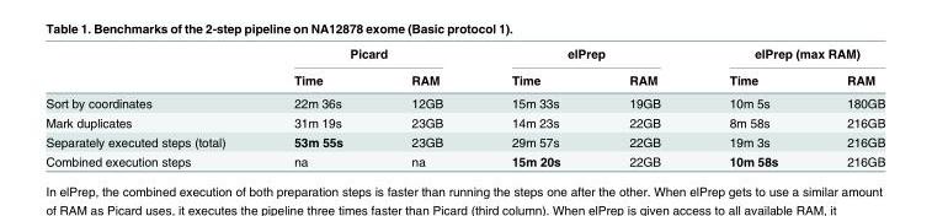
<table><thead><tr><td rowspan="2"></td><td colspan="2">Picard</td><td colspan="2">elPrep</td><td colspan="2">elPrep (max RAM)</td></tr><tr><td>Time</td><td>RAM</td><td>Time</td><td>RAM</td><td>Time</td><td>RAM</td></tr></thead><tbody><tr><td>Sort by coordinates</td><td>22m 36s</td><td>12GB</td><td>15m 33s</td><td>19GB</td><td>10m 5s</td><td>180GB</td></tr><tr><td>Mark duplicates</td><td>31m 19s</td><td>23GB</td><td>14m 23s</td><td>22GB</td><td>8m 58s</td><td>216GB</td></tr><tr><td>Separately executed steps (total)</td><td>53m 55s</td><td>23GB</td><td>29m 57s</td><td>22GB</td><td>19m 3s</td><td>216GB</td></tr><tr><td>Combined execution steps</td><td>na</td><td>na</td><td>15m 20s</td><td>22GB</td><td>10m 58s</td><td>216GB</td></tr></tbody></table>